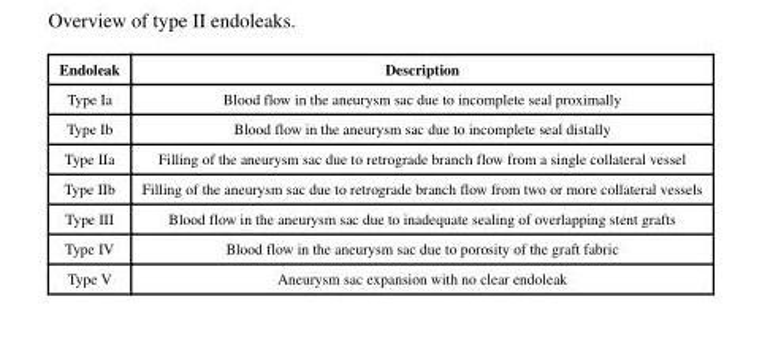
<table><thead><tr><td>Endoleak</td><td>Description</td></tr></thead><tbody><tr><td>Type Ia</td><td>Blood flow in the aneurysm sac due to incomplete seal proximally</td></tr><tr><td>Type Ib</td><td>Blood flow in the aneurysm sac due to incomplete seal distally</td></tr><tr><td>Type IIa</td><td>Filling of the aneurysm sac due to retrograde branch flow from a single collateral vessel</td></tr><tr><td>Type IIb</td><td>Filling of the aneurysm sac due to retrograde branch flow from two or more collateral vessels</td></tr><tr><td>Type III</td><td>Blood flow in the aneurysm sac due to inadequate sealing of overlapping stent grafts</td></tr><tr><td>Type IV</td><td>Blood flow in the aneurysm sac due to porosity of the graft fabric</td></tr><tr><td>Type V</td><td>Aneurysm sac expansion with no clear endoleak</td></tr></tbody></table>